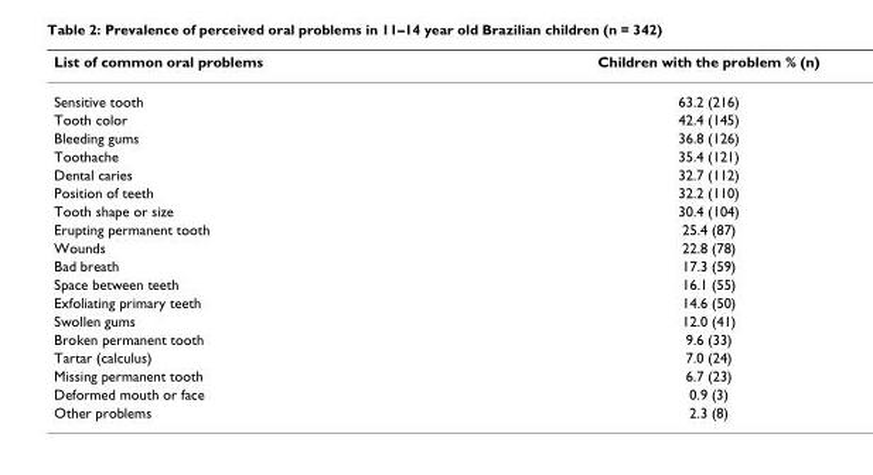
<table><thead><tr><td>List of common oral problems</td><td>Children with the problem % (n)</td></tr></thead><tbody><tr><td>Sensitive tooth</td><td>63.2 (216)</td></tr><tr><td>Tooth color</td><td>42.4 (145)</td></tr><tr><td>Bleeding gums</td><td>36.8 (126)</td></tr><tr><td>Toothache</td><td>35.4 (121)</td></tr><tr><td>Dental caries</td><td>32.7 (112)</td></tr><tr><td>Position of teeth</td><td>32.2 (110)</td></tr><tr><td>Tooth shape or size</td><td>30.4 (104)</td></tr><tr><td>Erupting permanent tooth</td><td>25.4 (87)</td></tr><tr><td>Wounds</td><td>22.8 (78)</td></tr><tr><td>Bad breath</td><td>17.3 (59)</td></tr><tr><td>Space between teeth</td><td>16.1 (55)</td></tr><tr><td>Exfoliating primary teeth</td><td>14.6 (50)</td></tr><tr><td>Swollen gums</td><td>12.0 (41)</td></tr><tr><td>Broken permanent tooth</td><td>9.6 (33)</td></tr><tr><td>Tartar (calculus)</td><td>7.0 (24)</td></tr><tr><td>Missing permanent tooth</td><td>6.7 (23)</td></tr><tr><td>Deformed mouth or face</td><td>0.9 (3)</td></tr><tr><td>Other problems</td><td>2.3 (8)</td></tr></tbody></table>